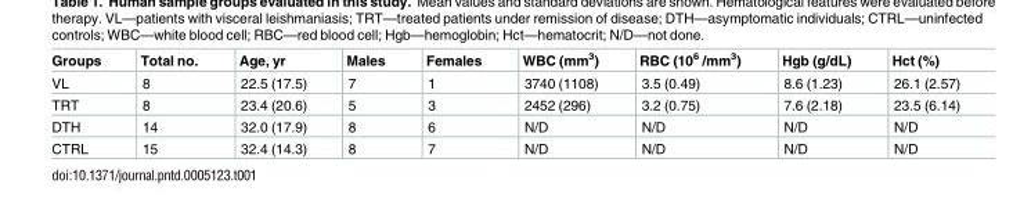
<table><thead><tr><td>Groups</td><td>Total no.</td><td>Age, yr</td><td>Males</td><td>Females</td><td>WBC (mm<sup>3</sup>)</td><td>RBC (10<sup>6</sup> /mm<sup>3</sup>)</td><td>Hgb (g/dL)</td><td>Hct (%)</td></tr></thead><tbody><tr><td>VL</td><td>8</td><td>22.5 (17.5)</td><td>7</td><td>1</td><td>3740 (1108)</td><td>3.5 (0.49)</td><td>8.6 (1.23)</td><td>26.1 (2.57)</td></tr><tr><td>TRT</td><td>8</td><td>23.4 (20.6)</td><td>5</td><td>3</td><td>2452 (296)</td><td>3.2 (0.75)</td><td>7.6 (2.18)</td><td>23.5 (6.14)</td></tr><tr><td>DTH</td><td>14</td><td>32.0 (17.9)</td><td>8</td><td>6</td><td>N/D</td><td>N/D</td><td>N/D</td><td>N/D</td></tr><tr><td>CTRL</td><td>15</td><td>32.4 (14.3)</td><td>8</td><td>7</td><td>N/D</td><td>N/D</td><td>N/D</td><td>N/D</td></tr></tbody></table>